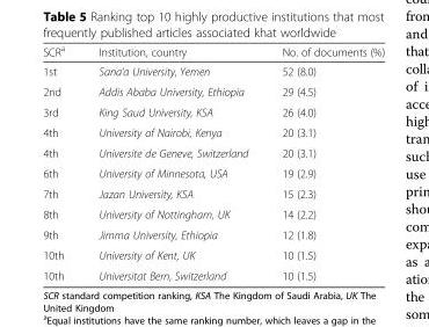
<table><thead><tr><td>SCR<sup>a</sup></td><td>Institution, country</td><td>No. of documents (%)</td></tr></thead><tbody><tr><td>1st</td><td>Sana’a University, Yemen</td><td>52 (8.0)</td></tr><tr><td>2nd</td><td>Addis Ababa University, Ethiopia</td><td>29 (4.5)</td></tr><tr><td>3rd</td><td>King Saud University, KSA</td><td>26 (4.0)</td></tr><tr><td>4th</td><td>University of Nairobi, Kenya</td><td>20 (3.1)</td></tr><tr><td>4th</td><td>Universite de Geneve, Switzerland</td><td>20 (3.1)</td></tr><tr><td>6th</td><td>University of Minnesota, USA</td><td>19 (2.9)</td></tr><tr><td>7th</td><td>Jazan University, KSA</td><td>15 (2.3)</td></tr><tr><td>8th</td><td>University of Nottingham, UK</td><td>14 (2.2)</td></tr><tr><td>9th</td><td>Jimma University, Ethiopia</td><td>12 (1.8)</td></tr><tr><td>10th</td><td>University of Kent, UK</td><td>10 (1.5)</td></tr><tr><td>10th</td><td>Universitat Bern, Switzerland</td><td>10 (1.5)</td></tr></tbody></table>